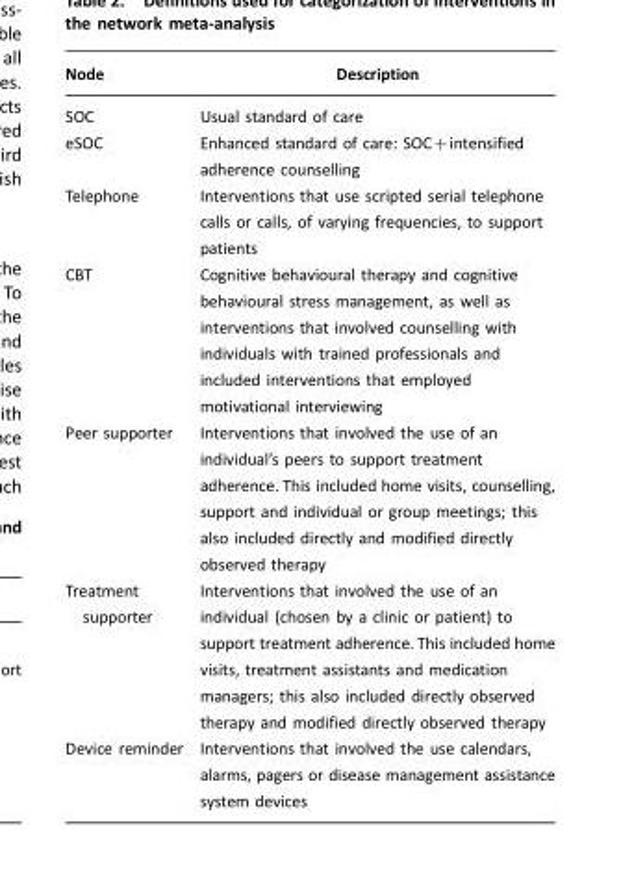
<table><thead><tr><td>Node</td><td>Description</td></tr></thead><tbody><tr><td>SOC</td><td>Usual standard of care</td></tr><tr><td>eSOC</td><td>Enhanced standard of care: SOC+intensified adherence counselling</td></tr><tr><td>Telephone</td><td>Interventions that use scripted serial telephone calls or calls, of varying frequencies, to support patients</td></tr><tr><td>CBT</td><td>Cognitive behavioural therapy and cognitive behavioural stress management, as well as interventions that involved counselling with individuals with trained professionals and included interventions that employed motivational interviewing</td></tr><tr><td>Peer supporter</td><td>Interventions that involved the use of an individual’s peers to support treatment adherence. This included home visits, counselling, support and individual or group meetings; this also included directly and modified directly observed therapy</td></tr><tr><td>Treatment supporter</td><td>Interventions that involved the use of an individual (chosen by a clinic or patient) to support treatment adherence. This included home visits, treatment assistants and medication managers; this also included directly observed therapy and modified directly observed therapy</td></tr><tr><td>Device reminder</td><td>Interventions that involved the use calendars, alarms, pagers or disease management assistance system devices</td></tr></tbody></table>